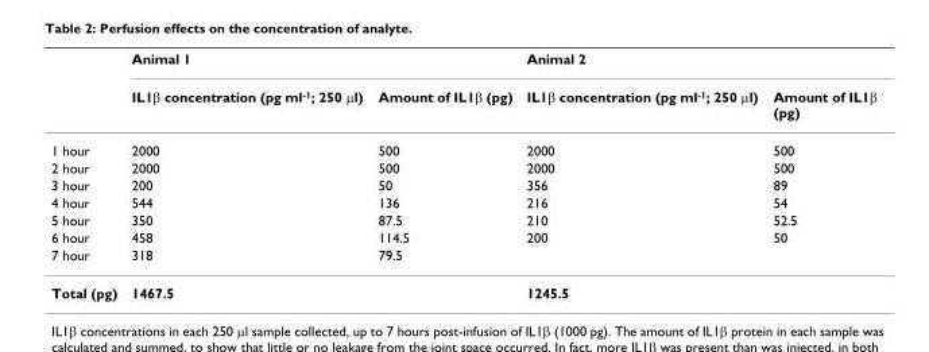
<table><thead><tr><td rowspan="2"></td><td colspan="2">Animal 1</td><td colspan="2">Animal 2</td></tr><tr><td>IL1β concentration (pg ml<sup>-1</sup>; 250 µl)</td><td>Amount of IL1β (pg)</td><td>IL1β concentration (pg ml<sup>-1</sup>; 250 µl)</td><td>Amount of IL1β (pg)</td></tr></thead><tbody><tr><td>1 hour</td><td>2000</td><td>500</td><td>2000</td><td>500</td></tr><tr><td>2 hour</td><td>2000</td><td>500</td><td>2000</td><td>500</td></tr><tr><td>3 hour</td><td>200</td><td>50</td><td>356</td><td>89</td></tr><tr><td>4 hour</td><td>544</td><td>136</td><td>216</td><td>54</td></tr><tr><td>5 hour</td><td>350</td><td>87.5</td><td>210</td><td>52.5</td></tr><tr><td>6 hour</td><td>458</td><td>114.5</td><td>200</td><td>50</td></tr><tr><td>7 hour</td><td>318</td><td>79.5</td><td></td><td></td></tr><tr><td>Total (pg)</td><td colspan="2">1467.5</td><td colspan="2">1245.5</td></tr></tbody></table>